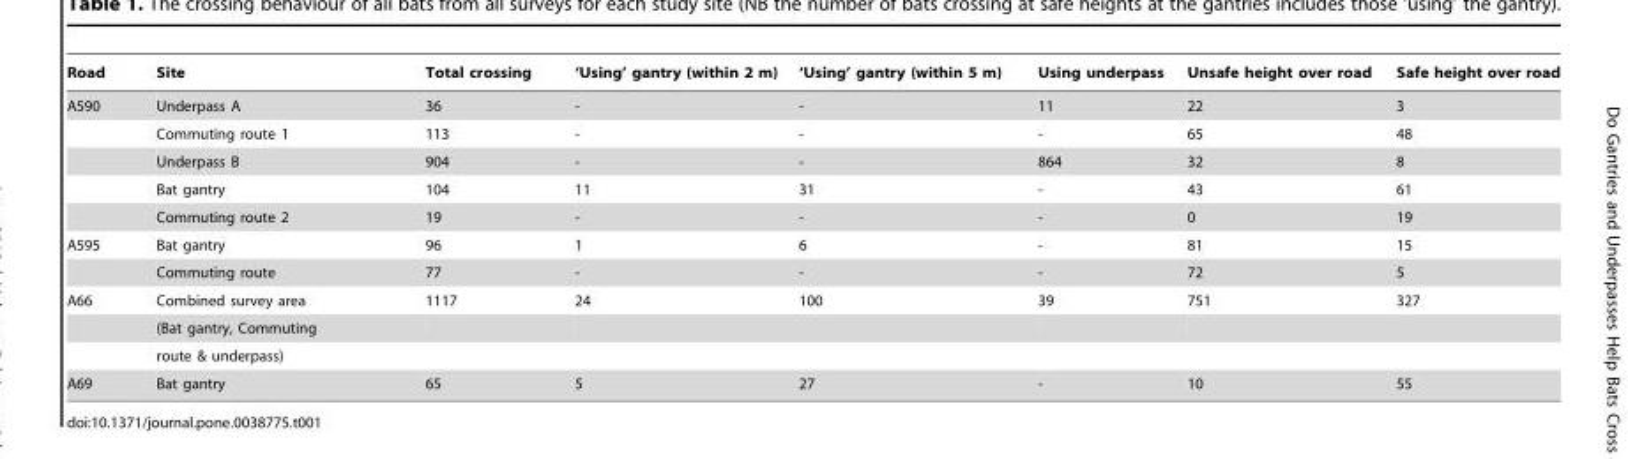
<table><thead><tr><td>Road</td><td>Site</td><td>Total crossing</td><td>‘Using’ gantry (within 2 m)</td><td>‘Using’ gantry (within 5 m)</td><td>Using underpass</td><td>Unsafe height over road</td><td>Safe height over road</td></tr></thead><tbody><tr><td rowspan="5">A590</td><td>Underpass A</td><td>36</td><td>-</td><td>-</td><td>11</td><td>22</td><td>3</td></tr><tr><td>Commuting route 1</td><td>113</td><td>-</td><td>-</td><td>-</td><td>65</td><td>48</td></tr><tr><td>Underpass B</td><td>904</td><td>-</td><td>-</td><td>864</td><td>32</td><td>8</td></tr><tr><td>Bat gantry</td><td>104</td><td>11</td><td>31</td><td>-</td><td>43</td><td>61</td></tr><tr><td>Commuting route 2</td><td>19</td><td>-</td><td>-</td><td>-</td><td>0</td><td>19</td></tr><tr><td rowspan="2">A595</td><td>Bat gantry</td><td>96</td><td>1</td><td>6</td><td>-</td><td>81</td><td>15</td></tr><tr><td>Commuting route</td><td>77</td><td>-</td><td>-</td><td>-</td><td>72</td><td>5</td></tr><tr><td rowspan="3">A66</td><td>Combined survey area</td><td>1117</td><td>24</td><td>100</td><td>39</td><td>751</td><td>327</td></tr><tr><td>(Bat gantry, Commuting</td><td></td><td></td><td></td><td></td><td></td><td></td></tr><tr><td>route &amp; underpass)</td><td></td><td></td><td></td><td></td><td></td><td></td></tr><tr><td>A69</td><td>Bat gantry</td><td>65</td><td>5</td><td>27</td><td>-</td><td>10</td><td>55</td></tr></tbody></table>